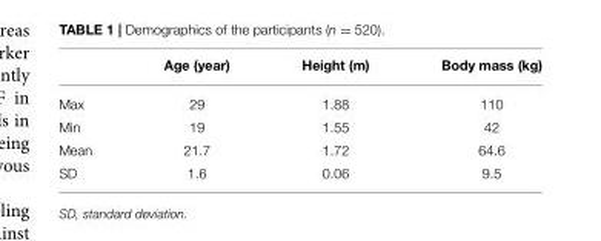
<table><thead><tr><td></td><td>Age (year)</td><td>Height (m)</td><td>Body mass (kg)</td></tr></thead><tbody><tr><td>Max</td><td>29</td><td>1.88</td><td>110</td></tr><tr><td>Min</td><td>19</td><td>1.55</td><td>42</td></tr><tr><td>Mean</td><td>21.7</td><td>1.72</td><td>64.6</td></tr><tr><td>SD</td><td>1.6</td><td>0.06</td><td>9.5</td></tr></tbody></table>